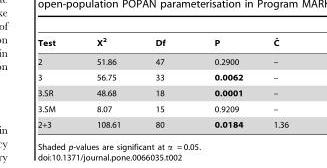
<table><thead><tr><td>Test</td><td>X<sup>2</sup></td><td>Df</td><td>P</td><td>Cˆ</td></tr></thead><tbody><tr><td>2</td><td>51.86</td><td>47</td><td>0.2900</td><td>–</td></tr><tr><td>3</td><td>56.75</td><td>33</td><td>0.0062</td><td>–</td></tr><tr><td>3.SR</td><td>48.68</td><td>18</td><td>0.0001</td><td>–</td></tr><tr><td>3.SM</td><td>8.07</td><td>15</td><td>0.9209</td><td>–</td></tr><tr><td>2+3</td><td>108.61</td><td>80</td><td>0.0184</td><td>1.36</td></tr></tbody></table>